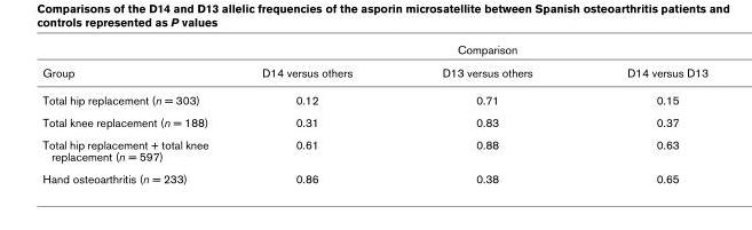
<table><thead><tr><td rowspan="2">Group</td><td colspan="3">Comparison</td></tr><tr><td>D14 versus others</td><td>D13 versus others</td><td>D14 versus D13</td></tr></thead><tbody><tr><td>Total hip replacement (n = 303)</td><td>0.12</td><td>0.71</td><td>0.15</td></tr><tr><td>Total knee replacement (n = 188)</td><td>0.31</td><td>0.83</td><td>0.37</td></tr><tr><td>Total hip replacement + total knee replacement (n = 597)</td><td>0.61</td><td>0.88</td><td>0.63</td></tr><tr><td>Hand osteoarthritis (n = 233)</td><td>0.86</td><td>0.38</td><td>0.65</td></tr></tbody></table>